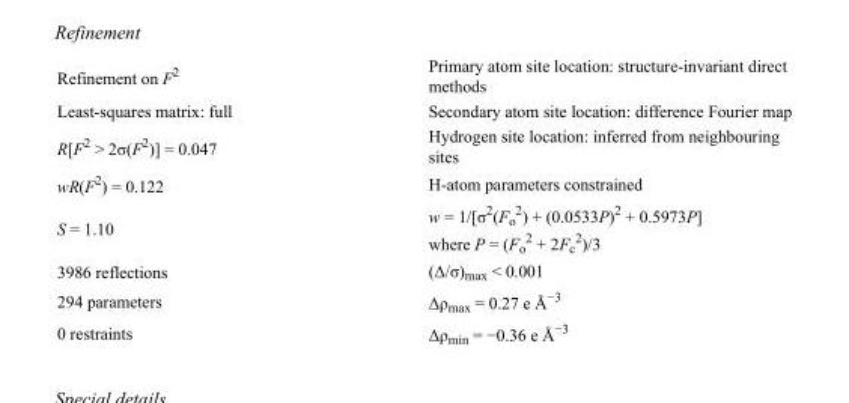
<table><tbody><tr><td>Refinement on F<sup>2</sup></td><td>Primary atom site location: structure-invariant direct methods</td></tr><tr><td>Least-squares matrix: full</td><td>Secondary atom site location: difference Fourier map</td></tr><tr><td>R[F<sup>2</sup> &gt; 2σ(F<sup>2</sup>)] = 0.047</td><td>Hydrogen site location: inferred from neighbouring sites</td></tr><tr><td>wR(F<sup>2</sup>) = 0.122</td><td>H-atom parameters constrained</td></tr><tr><td>S = 1.10</td><td>w = 1/[σ<sup>2</sup>(F<sub>o</sub> <sup>2</sup>) + (0.0533P)<sup>2</sup> + 0.5973P] where P = (F<sub>o</sub> <sup>2</sup> + 2F<sub>c</sub> <sup>2</sup>)/3</td></tr><tr><td>3986 reflections</td><td>(Δ/σ)<sub>max</sub> &lt; 0.001</td></tr><tr><td>294 parameters</td><td>Δρ<sub>max</sub> = 0.27 e Å<sup>−3</sup></td></tr><tr><td>0 restraints</td><td>Δρ<sub>min</sub> = −0.36 e Å<sup>−3</sup></td></tr></tbody></table>